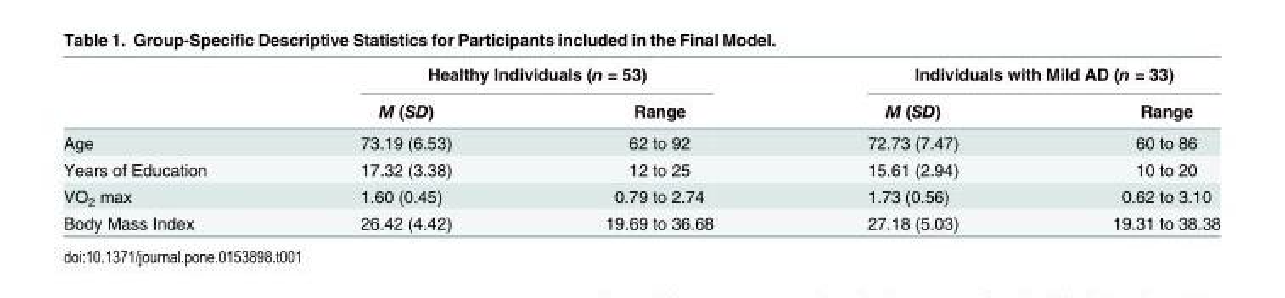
<table><thead><tr><td rowspan="2"></td><td colspan="2">Healthy Individuals (n = 53)</td><td colspan="2">Individuals with Mild AD (n = 33)</td></tr><tr><td>M (SD)</td><td>Range</td><td>M (SD)</td><td>Range</td></tr></thead><tbody><tr><td>Age</td><td>73.19 (6.53)</td><td>62 to 92</td><td>72.73 (7.47)</td><td>60 to 86</td></tr><tr><td>Years of Education</td><td>17.32 (3.38)</td><td>12 to 25</td><td>15.61 (2.94)</td><td>10 to 20</td></tr><tr><td>VO<sub>2</sub> max</td><td>1.60 (0.45)</td><td>0.79 to 2.74</td><td>1.73 (0.56)</td><td>0.62 to 3.10</td></tr><tr><td>Body Mass Index</td><td>26.42 (4.42)</td><td>19.69 to 36.68</td><td>27.18 (5.03)</td><td>19.31 to 38.38</td></tr></tbody></table>